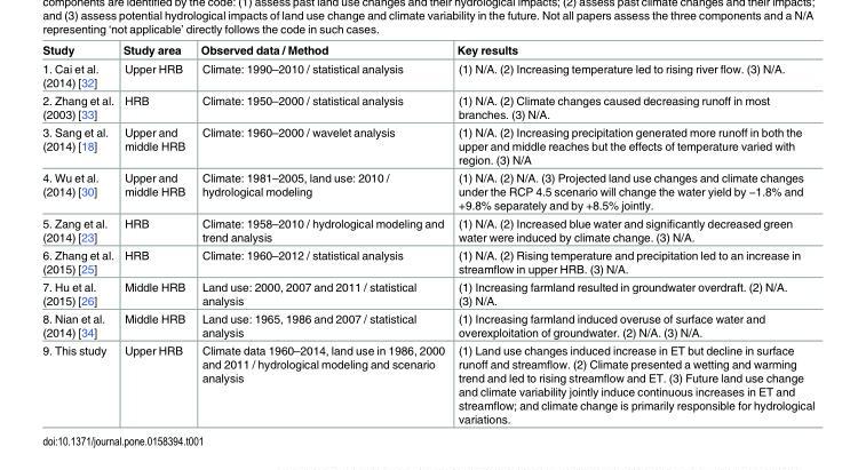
<table><thead><tr><td>Study</td><td>Study area</td><td>Observed data / Method</td><td>Key results</td></tr></thead><tbody><tr><td>1. Cai et al. (2014) [32]</td><td>Upper HRB</td><td>Climate: 1990–2010 / statistical analysis</td><td>(1) N/A. (2) Increasing temperature led to rising river flow. (3) N/A.</td></tr><tr><td>2. Zhang et al. (2003) [33]</td><td>HRB</td><td>Climate: 1950–2000 / statistical analysis</td><td>(1) N/A. (2) Climate changes caused decreasing runoff in most branches. (3) N/A.</td></tr><tr><td>3. Sang et al. (2014) [18]</td><td>Upper and middle HRB</td><td>Climate: 1960–2000 / wavelet analysis</td><td>(1) N/A. (2) Increasing precipitation generated more runoff in both the upper and middle reaches but the effects of temperature varied with region. (3) N/A</td></tr><tr><td>4. Wu et al. (2014) [30]</td><td>Upper and middle HRB</td><td>Climate: 1981–2005, land use: 2010 / hydrological modeling</td><td>(1) N/A. (2) N/A. (3) Projected land use changes and climate changes under the RCP 4.5 scenario will change the water yield by −1.8% and +9.8% separately and by +8.5% jointly.</td></tr><tr><td>5. Zang et al. (2014) [23]</td><td>HRB</td><td>Climate: 1958–2010 / hydrological modeling and trend analysis</td><td>(1) N/A. (2) Increased blue water and significantly decreased green water were induced by climate change. (3) N/A.</td></tr><tr><td>6. Zhang et al. (2015) [25]</td><td>HRB</td><td>Climate: 1960–2012 / statistical analysis</td><td>(1) N/A. (2) Rising temperature and precipitation led to an increase in streamflow in upper HRB. (3) N/A.</td></tr><tr><td>7. Hu et al. (2015) [26]</td><td>Middle HRB</td><td>Land use: 2000, 2007 and 2011 / statistical analysis</td><td>(1) Increasing farmland resulted in groundwater overdraft. (2) N/A. (3) N/A.</td></tr><tr><td>8. Nian et al. (2014) [34]</td><td>Middle HRB</td><td>Land use: 1965, 1986 and 2007 / statistical analysis</td><td>(1) Increasing farmland induced overuse of surface water and overexploitation of groundwater. (2) N/A. (3) N/A.</td></tr><tr><td>9. This study</td><td>Upper HRB</td><td>Climate data 1960–2014, land use in 1986, 2000 and 2011 / hydrological modeling and scenario analysis</td><td>(1) Land use changes induced increase in ET but decline in surface runoff and streamflow. (2) Climate presented a wetting and warming trend and led to rising streamflow and ET. (3) Future land use change and climate variability jointly induce continuous increases in ET and streamflow; and climate change is primarily responsible for hydrological variations.</td></tr></tbody></table>